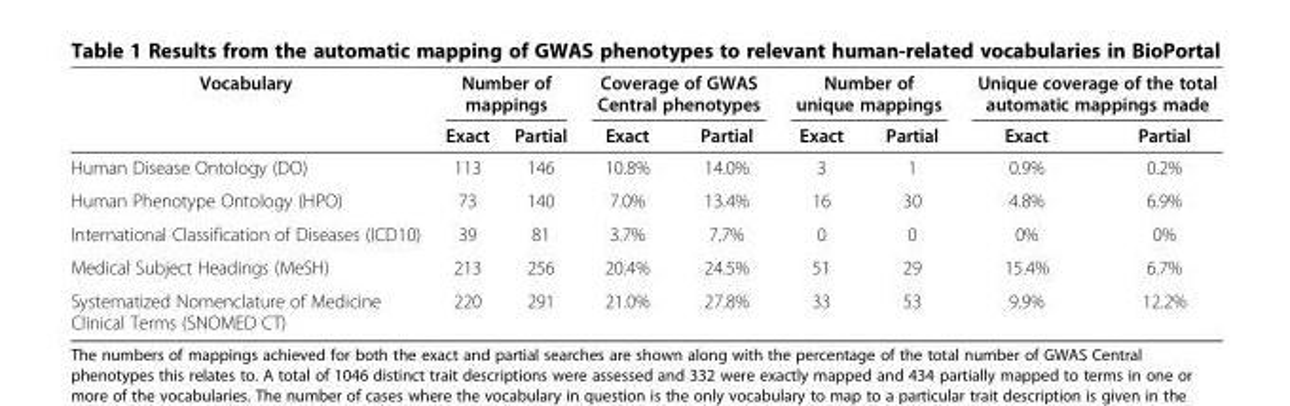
<table><thead><tr><td rowspan="2">Vocabulary</td><td colspan="2">Number of mappings</td><td colspan="2">Coverage of GWAS Central phenotypes</td><td colspan="2">Number of unique mappings</td><td colspan="2">Unique coverage of the total automatic mappings made</td></tr><tr><td>Exact</td><td>Partial</td><td>Exact</td><td>Partial</td><td>Exact</td><td>Partial</td><td>Exact</td><td>Partial</td></tr></thead><tbody><tr><td>Human Disease Ontology (DO)</td><td>113</td><td>146</td><td>10.8%</td><td>14.0%</td><td>3</td><td>1</td><td>0.9%</td><td>0.2%</td></tr><tr><td>Human Phenotype Ontology (HPO)</td><td>73</td><td>140</td><td>7.0%</td><td>13.4%</td><td>16</td><td>30</td><td>4.8%</td><td>6.9%</td></tr><tr><td>International Classification of Diseases (ICD10)</td><td>39</td><td>81</td><td>3.7%</td><td>7.7%</td><td>0</td><td>0</td><td>0%</td><td>0%</td></tr><tr><td>Medical Subject Headings (MeSH)</td><td>213</td><td>256</td><td>20.4%</td><td>24.5%</td><td>51</td><td>29</td><td>15.4%</td><td>6.7%</td></tr><tr><td>Systematized Nomenclature of Medicine Clinical Terms (SNOMED CT)</td><td>220</td><td>291</td><td>21.0%</td><td>27.8%</td><td>33</td><td>53</td><td>9.9%</td><td>12.2%</td></tr></tbody></table>